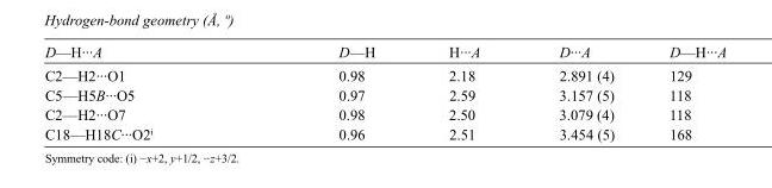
<table><tbody><tr><td>D—H···A</td><td>D—H</td><td>H···A</td><td>D···A</td><td>D—H···A</td></tr><tr><td>C2—H2···O1</td><td>0.98</td><td>2.18</td><td>2.891 (4)</td><td>129</td></tr><tr><td>C5—H5B···O5</td><td>0.97</td><td>2.59</td><td>3.157 (5)</td><td>118</td></tr><tr><td>C2—H2···O7</td><td>0.98</td><td>2.50</td><td>3.079 (4)</td><td>118</td></tr><tr><td>C18—H18C···O2<sup>i</sup></td><td>0.96</td><td>2.51</td><td>3.454 (5)</td><td>168</td></tr></tbody></table>